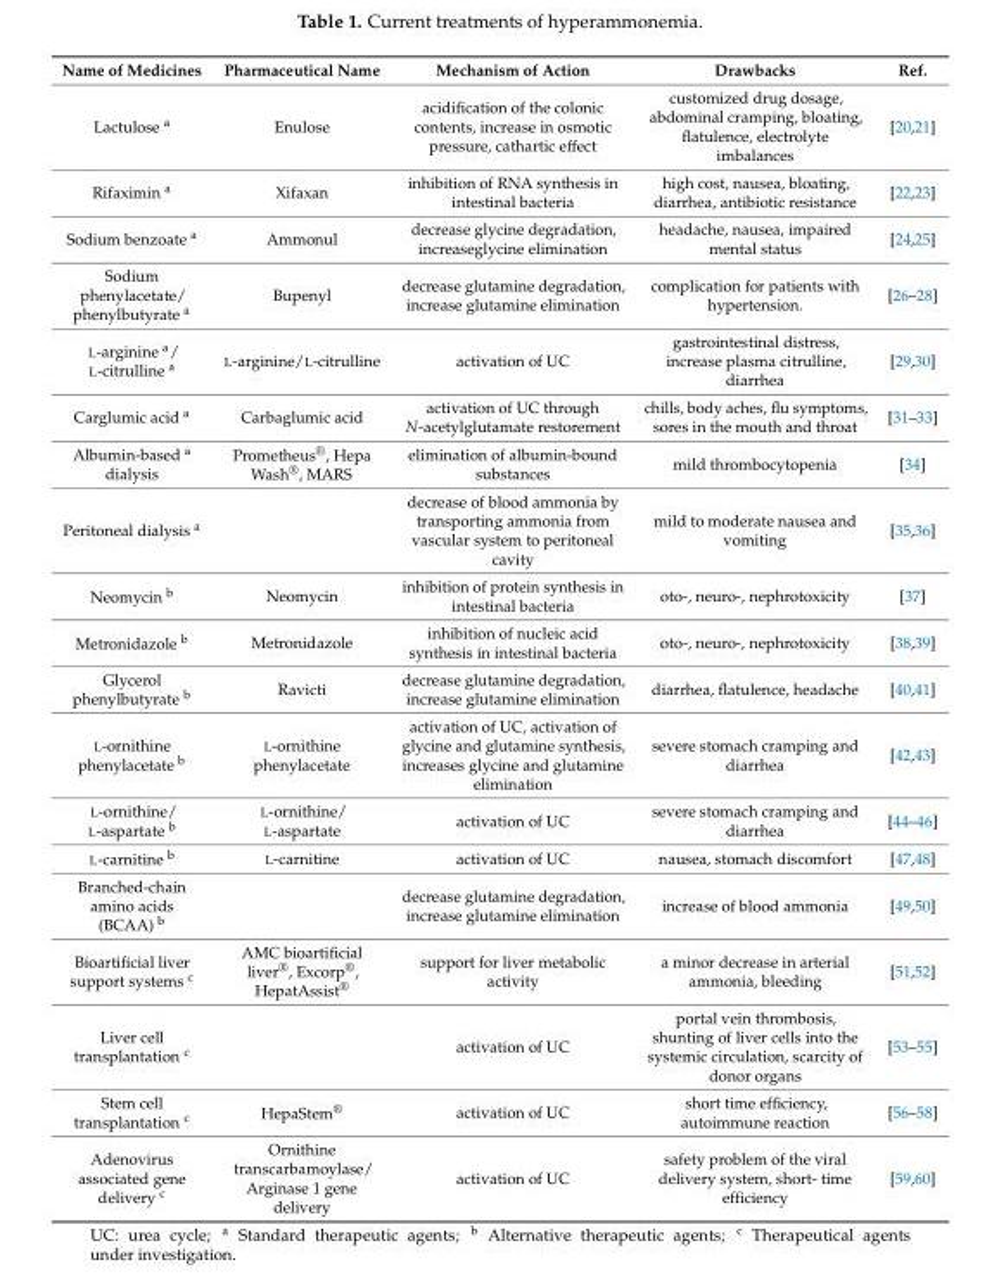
<table><thead><tr><td>Name of Medicines</td><td>Pharmaceutical Name</td><td>Mechanism of Action</td><td>Drawbacks</td><td>Ref.</td></tr></thead><tbody><tr><td>Lactulose <sup>a</sup></td><td>Enulose</td><td>acidification of the colonic contents, increase in osmotic pressure, cathartic effect</td><td>customized drug dosage, abdominal cramping, bloating, flatulence, electrolyte imbalances</td><td>[20,21]</td></tr><tr><td>Rifaximin <sup>a</sup></td><td>Xifaxan</td><td>inhibition of RNA synthesis in intestinal bacteria</td><td>high cost, nausea, bloating, diarrhea, antibiotic resistance</td><td>[22,23]</td></tr><tr><td>Sodium benzoate <sup>a</sup></td><td>Ammonul</td><td>decrease glycine degradation, increaseglycine elimination</td><td>headache, nausea, impaired mental status</td><td>[24,25]</td></tr><tr><td>Sodium phenylacetate/ phenylbutyrate <sup>a</sup></td><td>Bupenyl</td><td>decrease glutamine degradation, increase glutamine elimination</td><td>complication for patients with hypertension.</td><td>[26–28]</td></tr><tr><td>L-arginine <sup>a</sup>/ L-citrulline <sup>a</sup></td><td>L-arginine/L-citrulline</td><td>activation of UC</td><td>gastrointestinal distress, increase plasma citrulline, diarrhea</td><td>[29,30]</td></tr><tr><td>Carglumic acid <sup>a</sup></td><td>Carbaglumic acid</td><td>activation of UC through N-acetylglutamate restorement</td><td>chills, body aches, flu symptoms, sores in the mouth and throat</td><td>[31–33]</td></tr><tr><td>Albumin-based <sup>a</sup> dialysis</td><td>Prometheus<sup>®</sup>, Hepa Wash<sup>®</sup>, MARS</td><td>elimination of albumin-bound substances</td><td>mild thrombocytopenia</td><td>[34]</td></tr><tr><td>Peritoneal dialysis <sup>a</sup></td><td></td><td>decrease of blood ammonia by transporting ammonia from vascular system to peritoneal cavity</td><td>mild to moderate nausea and vomiting</td><td>[35,36]</td></tr><tr><td>Neomycin <sup>b</sup></td><td>Neomycin</td><td>inhibition of protein synthesis in intestinal bacteria</td><td>oto-, neuro-, nephrotoxicity</td><td>[37]</td></tr><tr><td>Metronidazole <sup>b</sup></td><td>Metronidazole</td><td>inhibition of nucleic acid synthesis in intestinal bacteria</td><td>oto-, neuro-, nephrotoxicity</td><td>[38,39]</td></tr><tr><td>Glycerol phenylbutyrate <sup>b</sup></td><td>Ravicti</td><td>decrease glutamine degradation, increase glutamine elimination</td><td>diarrhea, flatulence, headache</td><td>[40,41]</td></tr><tr><td>L-ornithine phenylacetate <sup>b</sup></td><td>L-ornithine phenylacetate</td><td>activation of UC, activation of glycine and glutamine synthesis, increases glycine and glutamine elimination</td><td>severe stomach cramping and diarrhea</td><td>[42,43]</td></tr><tr><td>L-ornithine/ L-aspartate <sup>b</sup></td><td>L-ornithine/ L-aspartate</td><td>activation of UC</td><td>severe stomach cramping and diarrhea</td><td>[44–46]</td></tr><tr><td>L-carnitine <sup>b</sup></td><td>L-carnitine</td><td>activation of UC</td><td>nausea, stomach discomfort</td><td>[47,48]</td></tr><tr><td>Branched-chain amino acids (BCAA) <sup>b</sup></td><td></td><td>decrease glutamine degradation, increase glutamine elimination</td><td>increase of blood ammonia</td><td>[49,50]</td></tr><tr><td>Bioartificial liver support systems <sup>c</sup></td><td>AMC bioartificial liver<sup>®</sup>, Excorp<sup>®</sup>, HepatAssist<sup>®</sup></td><td>support for liver metabolic activity</td><td>a minor decrease in arterial ammonia, bleeding</td><td>[51,52]</td></tr><tr><td>Liver cell transplantation <sup>c</sup></td><td></td><td>activation of UC</td><td>portal vein thrombosis, shunting of liver cells into the systemic circulation, scarcity of donor organs</td><td>[53–55]</td></tr><tr><td>Stem cell transplantation <sup>c</sup></td><td>HepaStem<sup>®</sup></td><td>activation of UC</td><td>short time efficiency, autoimmune reaction</td><td>[56–58]</td></tr><tr><td>Adenovirus associated gene delivery <sup>c</sup></td><td>Ornithine transcarbamoylase/ Arginase 1 gene delivery</td><td>activation of UC</td><td>safety problem of the viral delivery system, short- time efficiency</td><td>[59,60]</td></tr></tbody></table>